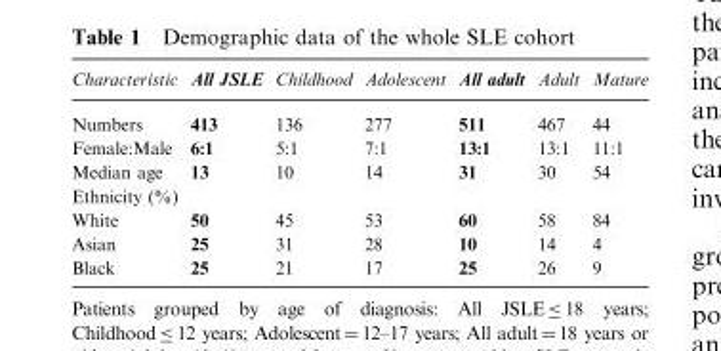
<table><thead><tr><td>Characteristic</td><td>All JSLE</td><td>Childhood</td><td>Adolescent</td><td>All adult</td><td>Adult</td><td>Mature</td></tr></thead><tbody><tr><td>Numbers</td><td>413</td><td>136</td><td>277</td><td>511</td><td>467</td><td>44</td></tr><tr><td>Female:Male</td><td>6:1</td><td>5:1</td><td>7:1</td><td>13:1</td><td>13:1</td><td>11:1</td></tr><tr><td>Median age</td><td>13</td><td>10</td><td>14</td><td>31</td><td>30</td><td>54</td></tr><tr><td colspan="7">Ethnicity (%)</td></tr><tr><td>White</td><td>50</td><td>45</td><td>53</td><td>60</td><td>58</td><td>84</td></tr><tr><td>Asian</td><td>25</td><td>31</td><td>28</td><td>10</td><td>14</td><td>4</td></tr><tr><td>Black</td><td>25</td><td>21</td><td>17</td><td>25</td><td>26</td><td>9</td></tr></tbody></table>